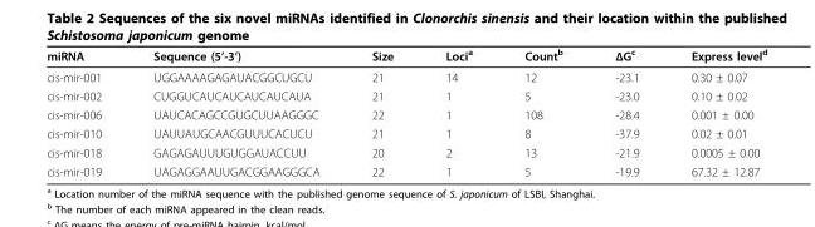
<table><thead><tr><td>miRNA</td><td>Sequence (5’-3’)</td><td>Size</td><td>Loci<sup>a</sup></td><td>Count<sup>b</sup></td><td>ΔG<sup>c</sup></td><td>Express level<sup>d</sup></td></tr></thead><tbody><tr><td>cis-mir-001</td><td>UGGAAAAGAGAUACGGCUGCU</td><td>21</td><td>14</td><td>12</td><td>-23.1</td><td>0.30 ± 0.07</td></tr><tr><td>cis-mir-002</td><td>CUGGUCAUCAUCAUCAUCAUA</td><td>21</td><td>1</td><td>5</td><td>-23.0</td><td>0.10 ± 0.02</td></tr><tr><td>cis-mir-006</td><td>UAUCACAGCCGUGCUUAAGGGC</td><td>22</td><td>1</td><td>108</td><td>-28.4</td><td>0.001 ± 0.00</td></tr><tr><td>cis-mir-010</td><td>UAUUAUGCAACGUUUCACUCU</td><td>21</td><td>1</td><td>8</td><td>-37.9</td><td>0.02 ± 0.01</td></tr><tr><td>cis-mir-018</td><td>GAGAGAUUUGUGGAUACCUU</td><td>20</td><td>2</td><td>13</td><td>-21.9</td><td>0.0005 ± 0.00</td></tr><tr><td>cis-mir-019</td><td>UAGAGGAAUUGACGGAAGGGCA</td><td>22</td><td>1</td><td>5</td><td>-19.9</td><td>67.32 ± 12.87</td></tr></tbody></table>